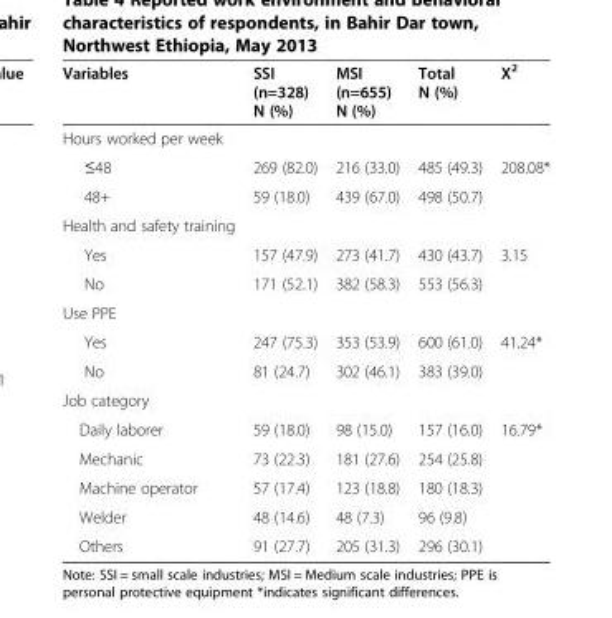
<table><thead><tr><td>Variables</td><td>SSI (n=328) N (%)</td><td>MSI (n=655) N (%)</td><td>Total N (%)</td><td>X<sup>2</sup></td></tr></thead><tbody><tr><td colspan="5">Hours worked per week</td></tr><tr><td>≤48</td><td>269 (82.0)</td><td>216 (33.0)</td><td>485 (49.3)</td><td>208.08*</td></tr><tr><td>48+</td><td>59 (18.0)</td><td>439 (67.0)</td><td>498 (50.7)</td><td></td></tr><tr><td colspan="5">Health and safety training</td></tr><tr><td>Yes</td><td>157 (47.9)</td><td>273 (41.7)</td><td>430 (43.7)</td><td>3.15</td></tr><tr><td>No</td><td>171 (52.1)</td><td>382 (58.3)</td><td>553 (56.3)</td><td></td></tr><tr><td colspan="5">Use PPE</td></tr><tr><td>Yes</td><td>247 (75.3)</td><td>353 (53.9)</td><td>600 (61.0)</td><td>41.24*</td></tr><tr><td>No</td><td>81 (24.7)</td><td>302 (46.1)</td><td>383 (39.0)</td><td></td></tr><tr><td colspan="5">Job category</td></tr><tr><td>Daily laborer</td><td>59 (18.0)</td><td>98 (15.0)</td><td>157 (16.0)</td><td>16.79*</td></tr><tr><td>Mechanic</td><td>73 (22.3)</td><td>181 (27.6)</td><td>254 (25.8)</td><td></td></tr><tr><td>Machine operator</td><td>57 (17.4)</td><td>123 (18.8)</td><td>180 (18.3)</td><td></td></tr><tr><td>Welder</td><td>48 (14.6)</td><td>48 (7.3)</td><td>96 (9.8)</td><td></td></tr><tr><td>Others</td><td>91 (27.7)</td><td>205 (31.3)</td><td>296 (30.1)</td><td></td></tr></tbody></table>